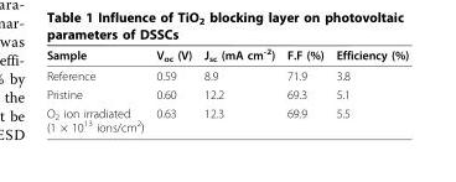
<table><thead><tr><td>Sample</td><td>V<sub>oc</sub> (V)</td><td>J<sub>sc</sub> (mA cm<sup>-2</sup>)</td><td>F.F (%)</td><td>Efficiency (%)</td></tr></thead><tbody><tr><td>Reference</td><td>0.59</td><td>8.9</td><td>71.9</td><td>3.8</td></tr><tr><td>Pristine</td><td>0.60</td><td>12.2</td><td>69.3</td><td>5.1</td></tr><tr><td>O<sub>2</sub> ion irradiated (1 × 10<sup>13</sup> ions/cm<sup>2</sup>)</td><td>0.63</td><td>12.3</td><td>69.9</td><td>5.5</td></tr></tbody></table>